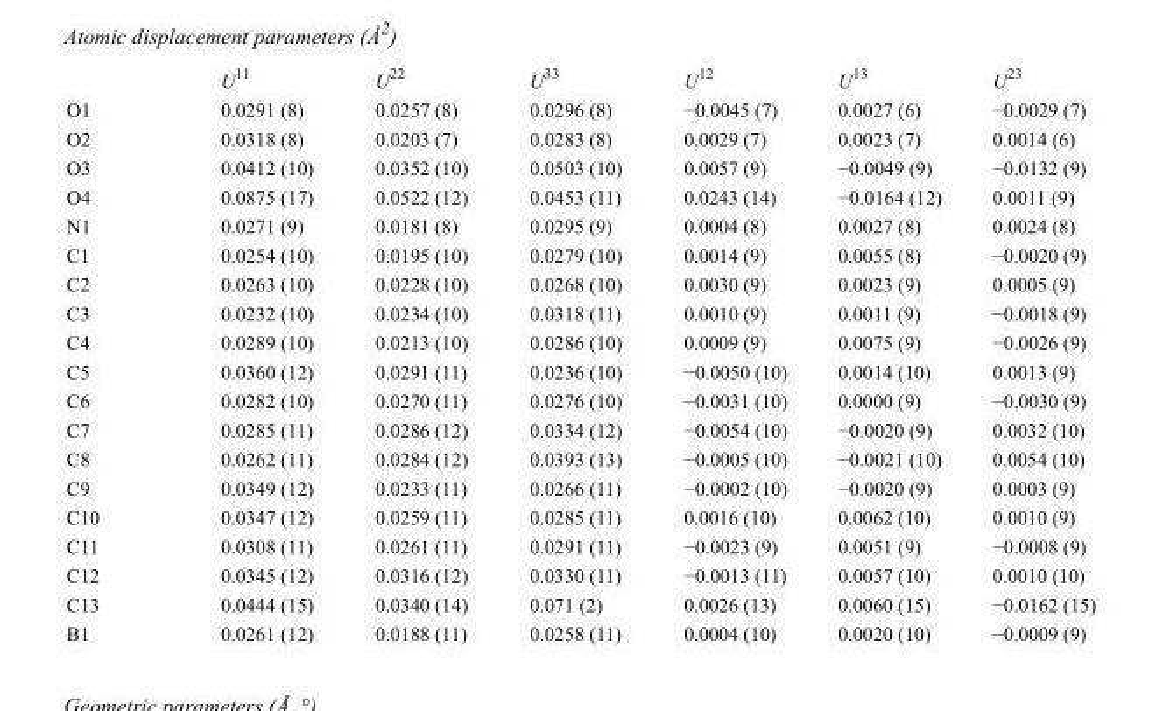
<table><thead><tr><td></td><td>U<sup>11</sup></td><td>U<sup>22</sup></td><td>U<sup>33</sup></td><td>U<sup>12</sup></td><td>U<sup>13</sup></td><td>U<sup>23</sup></td></tr></thead><tbody><tr><td>O1</td><td>0.0291 (8)</td><td>0.0257 (8)</td><td>0.0296 (8)</td><td>−0.0045 (7)</td><td>0.0027 (6)</td><td>−0.0029 (7)</td></tr><tr><td>O2</td><td>0.0318 (8)</td><td>0.0203 (7)</td><td>0.0283 (8)</td><td>0.0029 (7)</td><td>0.0023 (7)</td><td>0.0014 (6)</td></tr><tr><td>O3</td><td>0.0412 (10)</td><td>0.0352 (10)</td><td>0.0503 (10)</td><td>0.0057 (9)</td><td>−0.0049 (9)</td><td>−0.0132 (9)</td></tr><tr><td>O4</td><td>0.0875 (17)</td><td>0.0522 (12)</td><td>0.0453 (11)</td><td>0.0243 (14)</td><td>−0.0164 (12)</td><td>0.0011 (9)</td></tr><tr><td>N1</td><td>0.0271 (9)</td><td>0.0181 (8)</td><td>0.0295 (9)</td><td>0.0004 (8)</td><td>0.0027 (8)</td><td>0.0024 (8)</td></tr><tr><td>C1</td><td>0.0254 (10)</td><td>0.0195 (10)</td><td>0.0279 (10)</td><td>0.0014 (9)</td><td>0.0055 (8)</td><td>−0.0020 (9)</td></tr><tr><td>C2</td><td>0.0263 (10)</td><td>0.0228 (10)</td><td>0.0268 (10)</td><td>0.0030 (9)</td><td>0.0023 (9)</td><td>0.0005 (9)</td></tr><tr><td>C3</td><td>0.0232 (10)</td><td>0.0234 (10)</td><td>0.0318 (11)</td><td>0.0010 (9)</td><td>0.0011 (9)</td><td>−0.0018 (9)</td></tr><tr><td>C4</td><td>0.0289 (10)</td><td>0.0213 (10)</td><td>0.0286 (10)</td><td>0.0009 (9)</td><td>0.0075 (9)</td><td>−0.0026 (9)</td></tr><tr><td>C5</td><td>0.0360 (12)</td><td>0.0291 (11)</td><td>0.0236 (10)</td><td>−0.0050 (10)</td><td>0.0014 (10)</td><td>0.0013 (9)</td></tr><tr><td>C6</td><td>0.0282 (10)</td><td>0.0270 (11)</td><td>0.0276 (10)</td><td>−0.0031 (10)</td><td>0.0000 (9)</td><td>−0.0030 (9)</td></tr><tr><td>C7</td><td>0.0285 (11)</td><td>0.0286 (12)</td><td>0.0334 (12)</td><td>−0.0054 (10)</td><td>−0.0020 (9)</td><td>0.0032 (10)</td></tr><tr><td>C8</td><td>0.0262 (11)</td><td>0.0284 (12)</td><td>0.0393 (13)</td><td>−0.0005 (10)</td><td>−0.0021 (10)</td><td>0.0054 (10)</td></tr><tr><td>C9</td><td>0.0349 (12)</td><td>0.0233 (11)</td><td>0.0266 (11)</td><td>−0.0002 (10)</td><td>−0.0020 (9)</td><td>0.0003 (9)</td></tr><tr><td>C10</td><td>0.0347 (12)</td><td>0.0259 (11)</td><td>0.0285 (11)</td><td>0.0016 (10)</td><td>0.0062 (10)</td><td>0.0010 (9)</td></tr><tr><td>C11</td><td>0.0308 (11)</td><td>0.0261 (11)</td><td>0.0291 (11)</td><td>−0.0023 (9)</td><td>0.0051 (9)</td><td>−0.0008 (9)</td></tr><tr><td>C12</td><td>0.0345 (12)</td><td>0.0316 (12)</td><td>0.0330 (11)</td><td>−0.0013 (11)</td><td>0.0057 (10)</td><td>0.0010 (10)</td></tr><tr><td>C13</td><td>0.0444 (15)</td><td>0.0340 (14)</td><td>0.071 (2)</td><td>0.0026 (13)</td><td>0.0060 (15)</td><td>−0.0162 (15)</td></tr><tr><td>B1</td><td>0.0261 (12)</td><td>0.0188 (11)</td><td>0.0258 (11)</td><td>0.0004 (10)</td><td>0.0020 (10)</td><td>−0.0009 (9)</td></tr></tbody></table>